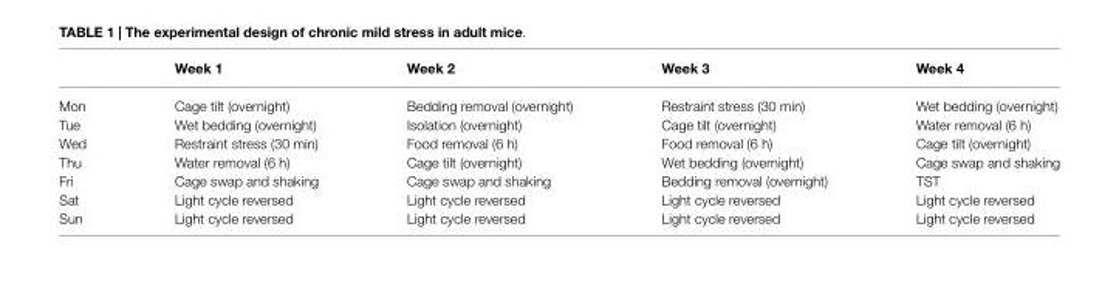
<table><thead><tr><td></td><td>Week 1</td><td>Week 2</td><td>Week 3</td><td>Week 4</td></tr></thead><tbody><tr><td>Mon</td><td>Cage tilt (overnight)</td><td>Bedding removal (overnight)</td><td>Restraint stress (30 min)</td><td>Wet bedding (overnight)</td></tr><tr><td>Tue</td><td>Wet bedding (overnight)</td><td>Isolation (overnight)</td><td>Cage tilt (overnight)</td><td>Water removal (6 h)</td></tr><tr><td>Wed</td><td>Restraint stress (30 min)</td><td>Food removal (6 h)</td><td>Food removal (6 h)</td><td>Cage tilt (overnight)</td></tr><tr><td>Thu</td><td>Water removal (6 h)</td><td>Cage tilt (overnight)</td><td>Wet bedding (overnight)</td><td>Cage swap and shaking</td></tr><tr><td>Fri</td><td>Cage swap and shaking</td><td>Cage swap and shaking</td><td>Bedding removal (overnight)</td><td>TST</td></tr><tr><td>Sat</td><td>Light cycle reversed</td><td>Light cycle reversed</td><td>Light cycle reversed</td><td>Light cycle reversed</td></tr><tr><td>Sun</td><td>Light cycle reversed</td><td>Light cycle reversed</td><td>Light cycle reversed</td><td>Light cycle reversed</td></tr></tbody></table>